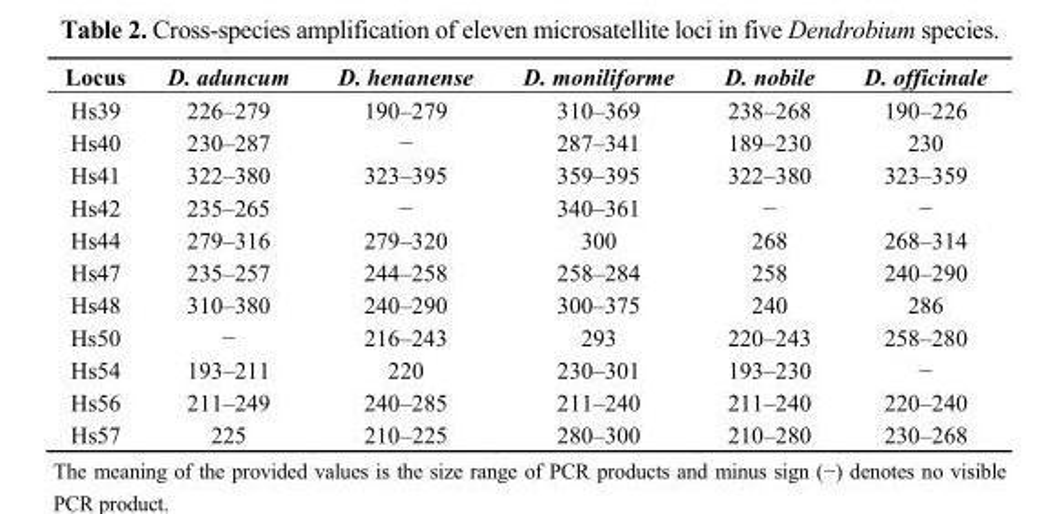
<table><thead><tr><td>Locus</td><td>D. aduncum</td><td>D. henanense</td><td>D. moniliforme</td><td>D. nobile</td><td>D. officinale</td></tr></thead><tbody><tr><td>Hs39</td><td>226–279</td><td>190–279</td><td>310–369</td><td>238–268</td><td>190–226</td></tr><tr><td>Hs40</td><td>230–287</td><td>−</td><td>287–341</td><td>189–230</td><td>230</td></tr><tr><td>Hs41</td><td>322–380</td><td>323–395</td><td>359–395</td><td>322–380</td><td>323–359</td></tr><tr><td>Hs42</td><td>235–265</td><td>−</td><td>340–361</td><td>−</td><td>−</td></tr><tr><td>Hs44</td><td>279–316</td><td>279–320</td><td>300</td><td>268</td><td>268–314</td></tr><tr><td>Hs47</td><td>235–257</td><td>244–258</td><td>258–284</td><td>258</td><td>240–290</td></tr><tr><td>Hs48</td><td>310–380</td><td>240–290</td><td>300–375</td><td>240</td><td>286</td></tr><tr><td>Hs50</td><td>−</td><td>216–243</td><td>293</td><td>220–243</td><td>258–280</td></tr><tr><td>Hs54</td><td>193–211</td><td>220</td><td>230–301</td><td>193–230</td><td>−</td></tr><tr><td>Hs56</td><td>211–249</td><td>240–285</td><td>211–240</td><td>211–240</td><td>220–240</td></tr><tr><td>Hs57</td><td>225</td><td>210–225</td><td>280–300</td><td>210–280</td><td>230–268</td></tr></tbody></table>